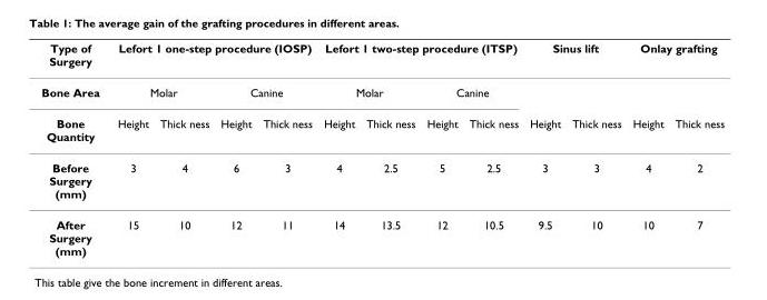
<table><thead><tr><td rowspan="3">Type of Surgery Bone Area Bone Quantity</td><td colspan="4">Lefort 1 one-step procedure (IOSP)</td><td colspan="4">Lefort 1 two-step procedure (ITSP)</td><td colspan="2">Sinus lift</td><td colspan="2">Onlay grafting</td></tr><tr><td colspan="2">Molar</td><td colspan="2">Canine</td><td colspan="2">Molar</td><td colspan="2">Canine</td><td rowspan="2">Height</td><td rowspan="2">Thick ness</td><td rowspan="2">Height</td><td rowspan="2">Thick ness</td></tr><tr><td>Height</td><td>Thick ness</td><td>Height</td><td>Thick ness</td><td>Height</td><td>Thick ness</td><td>Height</td><td>Thick ness</td></tr></thead><tbody><tr><td>Before Surgery (mm)</td><td>3</td><td>4</td><td>6</td><td>3</td><td>4</td><td>2.5</td><td>5</td><td>2.5</td><td>3</td><td>3</td><td>4</td><td>2</td></tr><tr><td>After Surgery (mm)</td><td>15</td><td>10</td><td>12</td><td>11</td><td>14</td><td>13.5</td><td>12</td><td>10.5</td><td>9.5</td><td>10</td><td>10</td><td>7</td></tr></tbody></table>